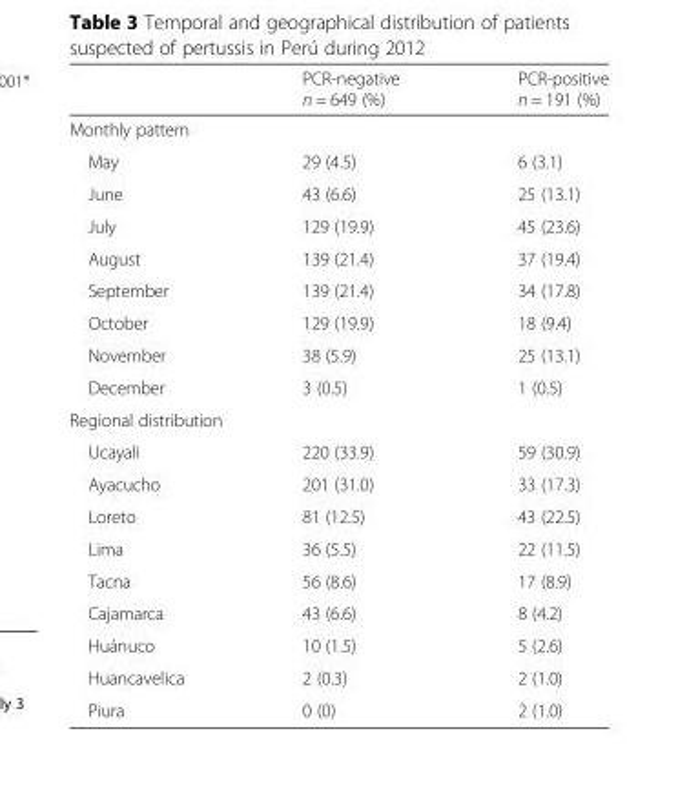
<table><thead><tr><td></td><td>PCR-negative n = 649 (%)</td><td>PCR-positive n = 191 (%)</td></tr></thead><tbody><tr><td colspan="3">Monthly pattern</td></tr><tr><td>May</td><td>29 (4.5)</td><td>6 (3.1)</td></tr><tr><td>June</td><td>43 (6.6)</td><td>25 (13.1)</td></tr><tr><td>July</td><td>129 (19.9)</td><td>45 (23.6)</td></tr><tr><td>August</td><td>139 (21.4)</td><td>37 (19.4)</td></tr><tr><td>September</td><td>139 (21.4)</td><td>34 (17.8)</td></tr><tr><td>October</td><td>129 (19.9)</td><td>18 (9.4)</td></tr><tr><td>November</td><td>38 (5.9)</td><td>25 (13.1)</td></tr><tr><td>December</td><td>3 (0.5)</td><td>1 (0.5)</td></tr><tr><td colspan="3">Regional distribution</td></tr><tr><td>Ucayali</td><td>220 (33.9)</td><td>59 (30.9)</td></tr><tr><td>Ayacucho</td><td>201 (31.0)</td><td>33 (17.3)</td></tr><tr><td>Loreto</td><td>81 (12.5)</td><td>43 (22.5)</td></tr><tr><td>Lima</td><td>36 (5.5)</td><td>22 (11.5)</td></tr><tr><td>Tacna</td><td>56 (8.6)</td><td>17 (8.9)</td></tr><tr><td>Cajamarca</td><td>43 (6.6)</td><td>8 (4.2)</td></tr><tr><td>Huánuco</td><td>10 (1.5)</td><td>5 (2.6)</td></tr><tr><td>Huancavelica</td><td>2 (0.3)</td><td>2 (1.0)</td></tr><tr><td>Piura</td><td>0 (0)</td><td>2 (1.0)</td></tr></tbody></table>